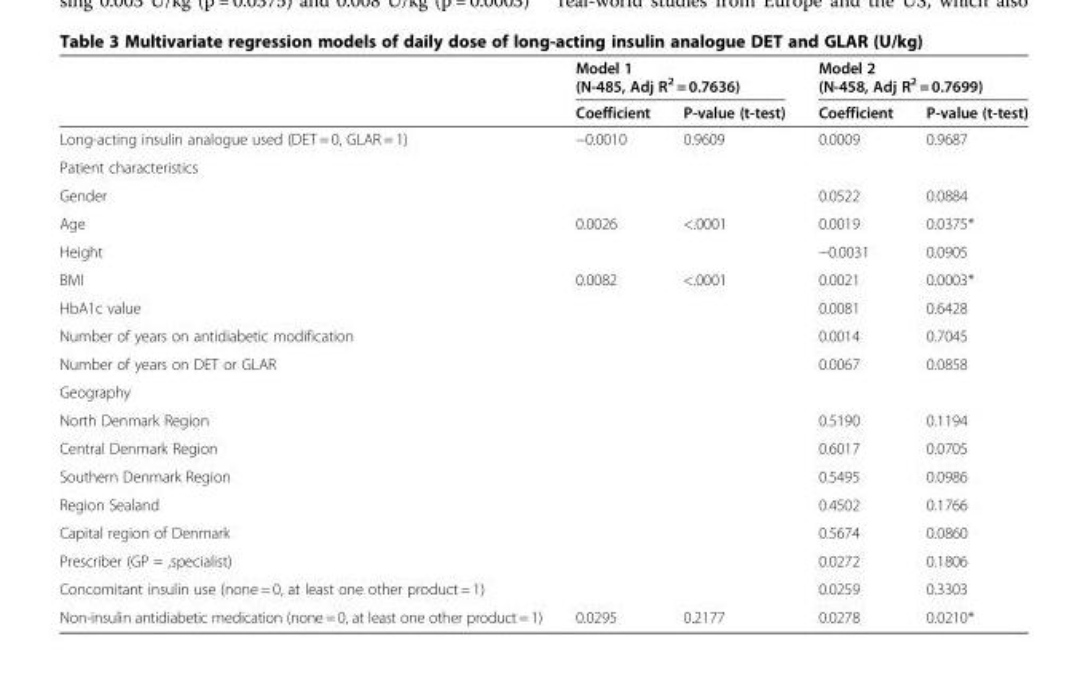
<table><thead><tr><td rowspan="2"></td><td colspan="2">Model 1 (N-485, Adj R<sup>2</sup> = 0.7636)</td><td colspan="2">Model 2 (N-458, Adj R<sup>2</sup> = 0.7699)</td></tr><tr><td>Coefficient</td><td>P-value (t-test)</td><td>Coefficient</td><td>P-value (t-test)</td></tr></thead><tbody><tr><td>Long-acting insulin analogue used (DET = 0, GLAR = 1)</td><td>−0.0010</td><td>0.9609</td><td>0.0009</td><td>0.9687</td></tr><tr><td colspan="5">Patient characteristics</td></tr><tr><td>Gender</td><td></td><td></td><td>0.0522</td><td>0.0884</td></tr><tr><td>Age</td><td>0.0026</td><td>&lt;.0001</td><td>0.0019</td><td>0.0375*</td></tr><tr><td>Height</td><td></td><td></td><td>−0.0031</td><td>0.0905</td></tr><tr><td>BMI</td><td>0.0082</td><td>&lt;.0001</td><td>0.0021</td><td>0.0003*</td></tr><tr><td>HbA1c value</td><td></td><td></td><td>0.0081</td><td>0.6428</td></tr><tr><td>Number of years on antidiabetic modification</td><td></td><td></td><td>0.0014</td><td>0.7045</td></tr><tr><td>Number of years on DET or GLAR</td><td></td><td></td><td>0.0067</td><td>0.0858</td></tr><tr><td colspan="5">Geography</td></tr><tr><td>North Denmark Region</td><td></td><td></td><td>0.5190</td><td>0.1194</td></tr><tr><td>Central Denmark Region</td><td></td><td></td><td>0.6017</td><td>0.0705</td></tr><tr><td>Southern Denmark Region</td><td></td><td></td><td>0.5495</td><td>0.0986</td></tr><tr><td>Region Sealand</td><td></td><td></td><td>0.4502</td><td>0.1766</td></tr><tr><td>Capital region of Denmark</td><td></td><td></td><td>0.5674</td><td>0.0860</td></tr><tr><td>Prescriber (GP = ,specialist)</td><td></td><td></td><td>0.0272</td><td>0.1806</td></tr><tr><td>Concomitant insulin use (none = 0, at least one other product = 1)</td><td></td><td></td><td>0.0259</td><td>0.3303</td></tr><tr><td>Non-insulin antidiabetic medication (none = 0, at least one other product = 1)</td><td>0.0295</td><td>0.2177</td><td>0.0278</td><td>0.0210*</td></tr></tbody></table>